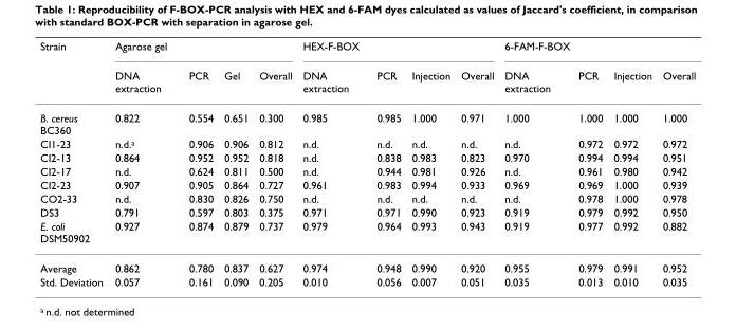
<table><thead><tr><td rowspan="2">Strain</td><td colspan="4">Agarose gel</td><td colspan="4">HEX-F-BOX</td><td colspan="4">6-FAM-F-BOX</td></tr><tr><td>DNA extraction</td><td>PCR</td><td>Gel</td><td>Overall</td><td>DNA extraction</td><td>PCR</td><td>Injection</td><td>Overall</td><td>DNA extraction</td><td>PCR</td><td>Injection</td><td>Overall</td></tr></thead><tbody><tr><td>B. cereus BC360</td><td>0.822</td><td>0.554</td><td>0.651</td><td>0.300</td><td>0.985</td><td>0.985</td><td>1.000</td><td>0.971</td><td>1.000</td><td>1.000</td><td>1.000</td><td>1.000</td></tr><tr><td>CI1-23</td><td>n.d.<sup>a</sup></td><td>0.906</td><td>0.906</td><td>0.812</td><td>n.d.</td><td>n.d.</td><td>n.d.</td><td>n.d.</td><td>n.d.</td><td>0.972</td><td>0.972</td><td>0.972</td></tr><tr><td>CI2-13</td><td>0.864</td><td>0.952</td><td>0.952</td><td>0.818</td><td>n.d.</td><td>0.838</td><td>0.983</td><td>0.823</td><td>0.970</td><td>0.994</td><td>0.994</td><td>0.951</td></tr><tr><td>CI2-17</td><td>n.d.</td><td>0.624</td><td>0.811</td><td>0.500</td><td>n.d.</td><td>0.944</td><td>0.981</td><td>0.926</td><td>n.d.</td><td>0.961</td><td>0.980</td><td>0.942</td></tr><tr><td>CI2-23</td><td>0.907</td><td>0.905</td><td>0.864</td><td>0.727</td><td>0.961</td><td>0.983</td><td>0.994</td><td>0.933</td><td>0.969</td><td>0.969</td><td>1.000</td><td>0.939</td></tr><tr><td>CO2-33</td><td>n.d.</td><td>0.830</td><td>0.826</td><td>0.750</td><td>n.d.</td><td>n.d.</td><td>n.d.</td><td>n.d.</td><td>n.d.</td><td>0.978</td><td>1.000</td><td>0.978</td></tr><tr><td>DS3</td><td>0.791</td><td>0.597</td><td>0.803</td><td>0.375</td><td>0.971</td><td>0.971</td><td>0.990</td><td>0.923</td><td>0.919</td><td>0.979</td><td>0.992</td><td>0.950</td></tr><tr><td>E. coli DSM50902</td><td>0.927</td><td>0.874</td><td>0.879</td><td>0.737</td><td>0.979</td><td>0.964</td><td>0.993</td><td>0.943</td><td>0.919</td><td>0.977</td><td>0.992</td><td>0.882</td></tr><tr><td>Average</td><td>0.862</td><td>0.780</td><td>0.837</td><td>0.627</td><td>0.974</td><td>0.948</td><td>0.990</td><td>0.920</td><td>0.955</td><td>0.979</td><td>0.991</td><td>0.952</td></tr><tr><td>Std. Deviation</td><td>0.057</td><td>0.161</td><td>0.090</td><td>0.205</td><td>0.010</td><td>0.056</td><td>0.007</td><td>0.051</td><td>0.035</td><td>0.013</td><td>0.010</td><td>0.035</td></tr></tbody></table>